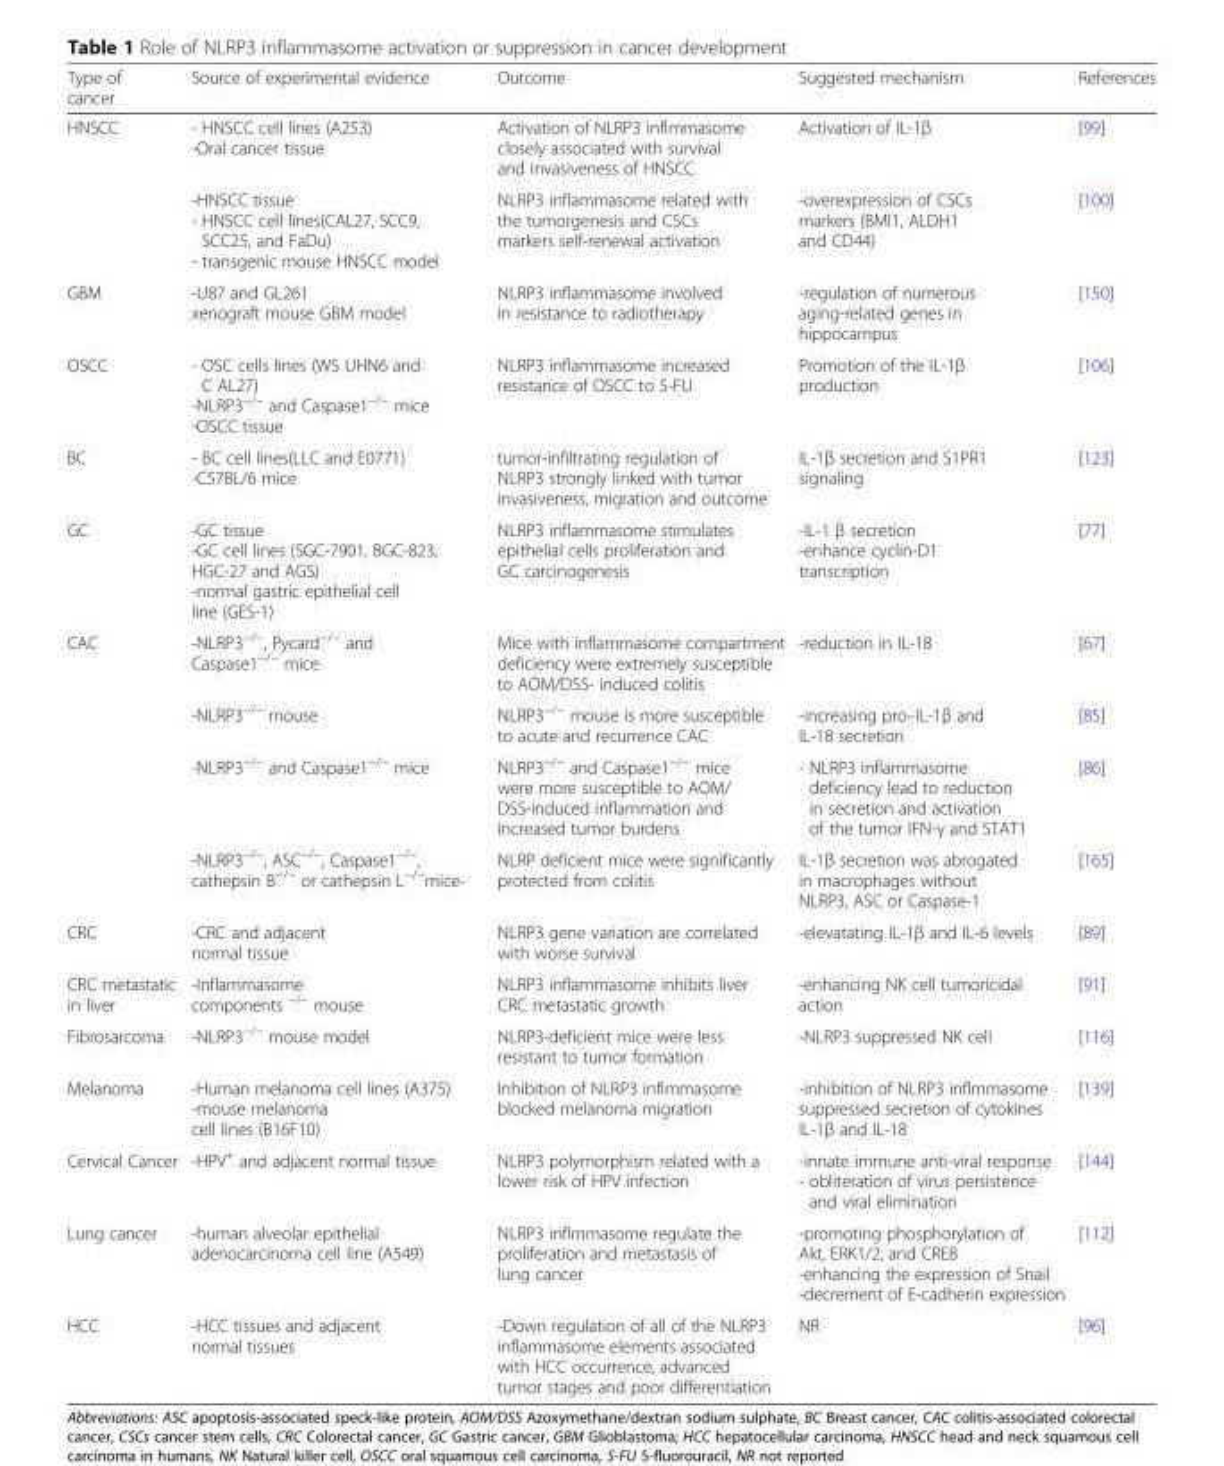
<table><thead><tr><td>Type of cancer</td><td>Source of experimental evidence</td><td>Outcome</td><td>Suggested mechanism</td><td>References</td></tr></thead><tbody><tr><td rowspan="2">HNSCC</td><td>- HNSCC cell lines (A253) -Oral cancer tissue</td><td>Activation of NLRP3 inflmmasome closely associated with survival and invasiveness of HNSCC</td><td>Activation of IL-1β</td><td>[99]</td></tr><tr><td>-HNSCC tissue - HNSCC cell lines(CAL27, SCC9, SCC25, and FaDu) - transgenic mouse HNSCC model</td><td>NLRP3 inflammasome related with the tumorgenesis and CSCs markers self-renewal activation</td><td>-overexpression of CSCs markers (BMI1, ALDH1 and CD44)</td><td>[100]</td></tr><tr><td>GBM</td><td>-U87 and GL261 xenograft mouse GBM model</td><td>NLRP3 inflammasome involved in resistance to radiotherapy</td><td>-regulation of numerous aging-related genes in hippocampus</td><td>[150]</td></tr><tr><td>OSCC</td><td>- OSC cells lines (WS UHN6 and C AL27) -NLRP3<sup>−/−</sup> and Caspase1<sup>−/−</sup> mice -OSCC tissue</td><td>NLRP3 inflammasome increased resistance of OSCC to 5-FU</td><td>Promotion of the IL-1β production</td><td>[106]</td></tr><tr><td>BC</td><td>- BC cell lines(LLC and E0771) -C57BL/6 mice</td><td>tumor-infiltrating regulation of NLRP3 strongly linked with tumor invasiveness, migration and outcome</td><td>IL-1β secretion and S1PR1 signaling</td><td>[123]</td></tr><tr><td>GC</td><td>-GC tissue -GC cell lines (SGC-7901, BGC-823, HGC-27 and AGS) -normal gastric epithelial cell line (GES-1)</td><td>NLRP3 inflammasome stimulates epithelial cells proliferation and GC carcinogenesis</td><td>-IL-1 β secretion -enhance cyclin-D1 transcription</td><td>[77]</td></tr><tr><td rowspan="4">CAC</td><td>-NLRP3<sup>−/−</sup>, Pycard<sup>−/−</sup> and Caspase1<sup>−/−</sup> mice</td><td>Mice with inflammasome compartment deficiency were extremely susceptible to AOM/DSS- induced colitis</td><td>-reduction in IL-18</td><td>[67]</td></tr><tr><td>-NLRP3<sup>−/−</sup> mouse</td><td>NLRP3<sup>−/−</sup> mouse is more susceptible to acute and recurrence CAC</td><td>-increasing pro–IL-1β and IL-18 secretion</td><td>[85]</td></tr><tr><td>-NLRP3<sup>−/−</sup> and Caspase1<sup>−/−</sup> mice</td><td>NLRP3<sup>−/−</sup> and Caspase1<sup>−/−</sup> mice were more susceptible to AOM/ DSS-induced inflammation and increased tumor burdens</td><td>- NLRP3 inflammasome deficiency lead to reduction in secretion and activation of the tumor IFN-γ and STAT1</td><td>[86]</td></tr><tr><td>-NLRP3<sup>−/−</sup>, ASC<sup>−/−</sup>, Caspase1<sup>−/−</sup>, cathepsin B<sup>−/−</sup> or cathepsin L<sup>−/−</sup>mice-</td><td>NLRP deficient mice were significantly protected from colitis</td><td>IL-1β secretion was abrogated in macrophages without NLRP3, ASC or Caspase-1</td><td>[165]</td></tr><tr><td>CRC</td><td>-CRC and adjacent normal tissue</td><td>NLRP3 gene variation are correlated with worse survival</td><td>-elevatating IL-1β and IL-6 levels</td><td>[89]</td></tr><tr><td>CRC metastatic in liver</td><td>-Inflammasome components <sup>−/−</sup> mouse</td><td>NLRP3 inflammasome inhibits liver CRC metastatic growth</td><td>-enhancing NK cell tumoricidal action</td><td>[91]</td></tr><tr><td>Fibrosarcoma</td><td>-NLRP3<sup>−/−</sup> mouse model</td><td>NLRP3-deficient mice were less resistant to tumor formation</td><td>-NLRP3 suppressed NK cell</td><td>[116]</td></tr><tr><td>Melanoma</td><td>-Human melanoma cell lines (A375) -mouse melanoma cell lines (B16F10)</td><td>Inhibition of NLRP3 inflmmasome blocked melanoma migration</td><td>-inhibition of NLRP3 inflmmasome suppressed secretion of cytokines IL-1β and IL-18</td><td>[139]</td></tr><tr><td>Cervical Cancer</td><td>-HPV<sup>+</sup> and adjacent normal tissue</td><td>NLRP3 polymorphism related with a lower risk of HPV infection</td><td>-innate immune anti-viral response - obliteration of virus persistence and viral elimination</td><td>[144]</td></tr><tr><td>Lung cancer</td><td>-human alveolar epithelial adenocarcinoma cell line (A549)</td><td>NLRP3 inflmmasome regulate the proliferation and metastasis of lung cancer</td><td>-promoting phosphorylation of Akt, ERK1/2, and CREB -enhancing the expression of Snail -decrement of E-cadherin expression</td><td>[112]</td></tr><tr><td>HCC</td><td>-HCC tissues and adjacent normal tissues</td><td>-Down regulation of all of the NLRP3 inflammasome elements associated with HCC occurrence, advanced tumor stages and poor differentiation</td><td>NR</td><td>[96]</td></tr></tbody></table>